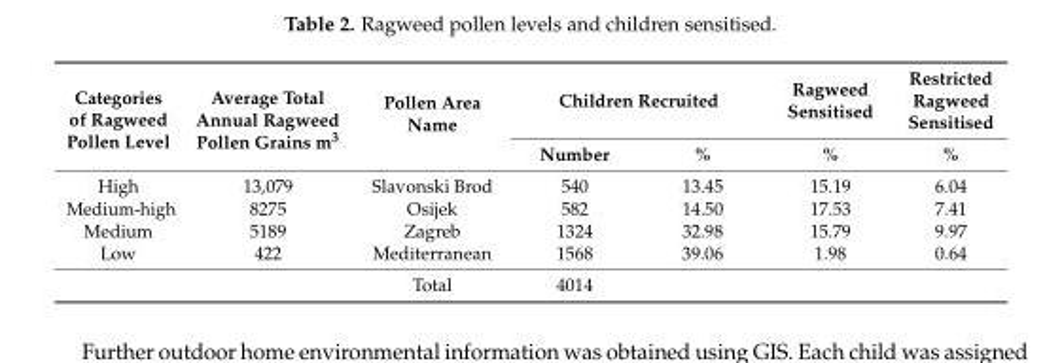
<table><thead><tr><td rowspan="2">Categories of Ragweed Pollen Level</td><td rowspan="2">Average Total Annual Ragweed Pollen Grains m<sup>3</sup></td><td rowspan="2">Pollen Area Name</td><td colspan="2">Children Recruited</td><td rowspan="2">Ragweed Sensitised %</td><td rowspan="2">Restricted Ragweed Sensitised %</td></tr><tr><td>Number</td><td>%</td></tr></thead><tbody><tr><td>High</td><td>13,079</td><td>Slavonski Brod</td><td>540</td><td>13.45</td><td>15.19</td><td>6.04</td></tr><tr><td>Medium-high</td><td>8275</td><td>Osijek</td><td>582</td><td>14.50</td><td>17.53</td><td>7.41</td></tr><tr><td>Medium</td><td>5189</td><td>Zagreb</td><td>1324</td><td>32.98</td><td>15.79</td><td>9.97</td></tr><tr><td rowspan="2">Low</td><td>422</td><td>Mediterranean</td><td>1568</td><td>39.06</td><td>1.98</td><td>0.64</td></tr><tr><td></td><td>Total</td><td>4014</td><td></td><td></td><td></td></tr></tbody></table>